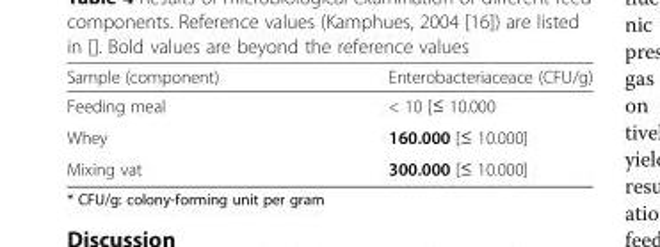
<table><thead><tr><td>Sample (component)</td><td>Enterobacteriaceace (CFU/g)</td></tr></thead><tbody><tr><td>Feeding meal</td><td>&lt; 10 [≤ 10.000</td></tr><tr><td>Whey</td><td>160.000 [≤ 10.000]</td></tr><tr><td>Mixing vat</td><td>300.000 [≤ 10.000]</td></tr></tbody></table>